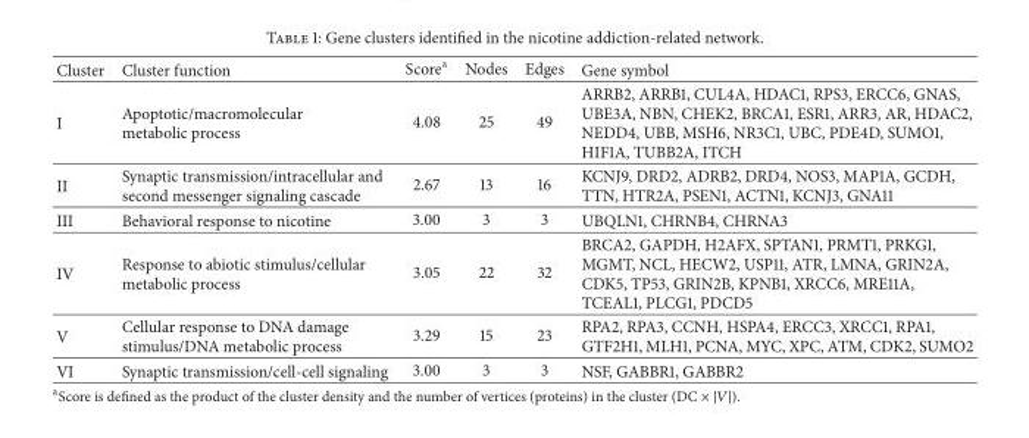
<table><thead><tr><td>Cluster</td><td>Cluster function</td><td>Score<sup>a</sup></td><td>Nodes</td><td>Edges</td><td>Gene symbol</td></tr></thead><tbody><tr><td>I</td><td>Apoptotic/macromolecular metabolic process</td><td>4.08</td><td>25</td><td>49</td><td>ARRB2, ARRB1, CUL4A, HDAC1, RPS3, ERCC6, GNAS, UBE3A, NBN, CHEK2, BRCA1, ESR1, ARR3, AR, HDAC2, NEDD4, UBB, MSH6, NR3C1, UBC, PDE4D, SUMO1, HIF1A, TUBB2A, ITCH</td></tr><tr><td>II</td><td>Synaptic transmission/intracellular and second messenger signaling cascade</td><td>2.67</td><td>13</td><td>16</td><td>KCNJ9, DRD2, ADRB2, DRD4, NOS3, MAP1A, GCDH, TTN, HTR2A, PSEN1, ACTN1, KCNJ3, GNA11</td></tr><tr><td>III</td><td>Behavioral response to nicotine</td><td>3.00</td><td>3</td><td>3</td><td>UBQLN1, CHRNB4, CHRNA3</td></tr><tr><td>IV</td><td>Response to abiotic stimulus/cellular metabolic process</td><td>3.05</td><td>22</td><td>32</td><td>BRCA2, GAPDH, H2AFX, SPTAN1, PRMT1, PRKG1, MGMT, NCL, HECW2, USP11, ATR, LMNA, GRIN2A, CDK5, TP53, GRIN2B, KPNB1, XRCC6, MRE11A, TCEAL1, PLCG1, PDCD5</td></tr><tr><td>V</td><td>Cellular response to DNA damage stimulus/DNA metabolic process</td><td>3.29</td><td>15</td><td>23</td><td>RPA2, RPA3, CCNH, HSPA4, ERCC3, XRCC1, RPA1, GTF2H1, MLH1, PCNA, MYC, XPC, ATM, CDK2, SUMO2</td></tr><tr><td>VI</td><td>Synaptic transmission/cell-cell signaling</td><td>3.00</td><td>3</td><td>3</td><td>NSF, GABBR1, GABBR2</td></tr></tbody></table>